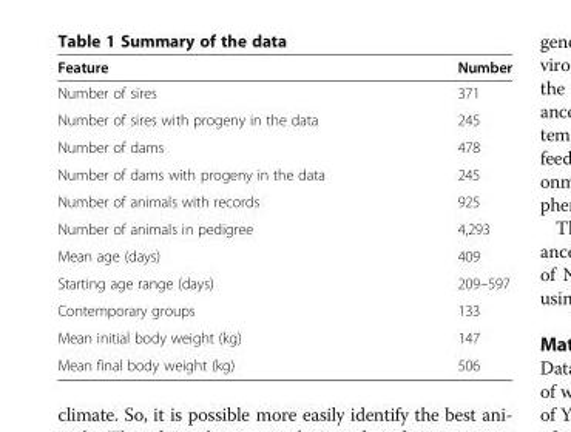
<table><thead><tr><td>Feature</td><td>Number</td></tr></thead><tbody><tr><td>Number of sires</td><td>371</td></tr><tr><td>Number of sires with progeny in the data</td><td>245</td></tr><tr><td>Number of dams</td><td>478</td></tr><tr><td>Number of dams with progeny in the data</td><td>245</td></tr><tr><td>Number of animals with records</td><td>925</td></tr><tr><td>Number of animals in pedigree</td><td>4,293</td></tr><tr><td>Mean age (days)</td><td>409</td></tr><tr><td>Starting age range (days)</td><td>209–597</td></tr><tr><td>Contemporary groups</td><td>133</td></tr><tr><td>Mean initial body weight (kg)</td><td>147</td></tr><tr><td>Mean final body weight (kg)</td><td>506</td></tr></tbody></table>